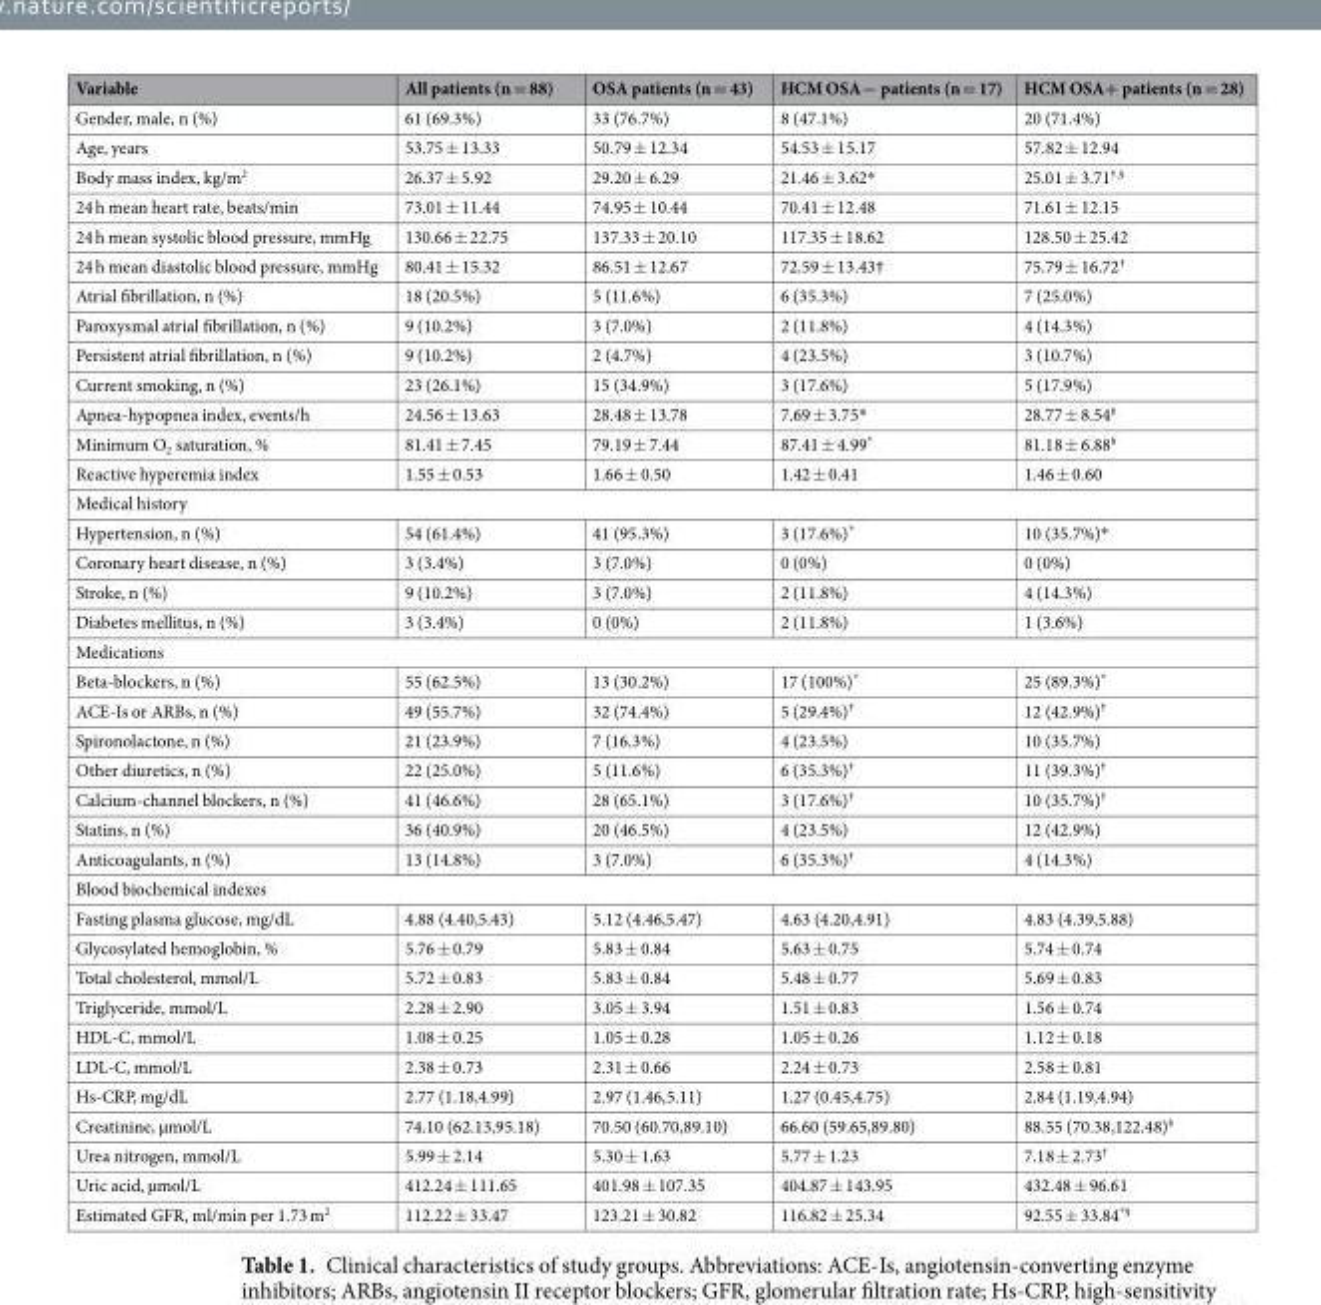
<table><thead><tr><td>Variable</td><td>All patients (n = 88)</td><td>OSA patients (n = 43)</td><td>HCM OSA− patients (n = 17)</td><td>HCM OSA+ patients (n = 28)</td></tr></thead><tbody><tr><td>Gender, male, n (%)</td><td>61 (69.3%)</td><td>33 (76.7%)</td><td>8 (47.1%)</td><td>20 (71.4%)</td></tr><tr><td>Age, years</td><td>53.75 ± 13.33</td><td>50.79 ± 12.34</td><td>54.53 ± 15.17</td><td>57.82 ± 12.94</td></tr><tr><td>Body mass index, kg/m<sup>2</sup></td><td>26.37 ± 5.92</td><td>29.20 ± 6.29</td><td>21.46 ± 3.62*</td><td>25.01 ± 3.71<sup>†,§</sup></td></tr><tr><td>24 h mean heart rate, beats/min</td><td>73.01 ± 11.44</td><td>74.95 ± 10.44</td><td>70.41 ± 12.48</td><td>71.61 ± 12.15</td></tr><tr><td>24 h mean systolic blood pressure, mmHg</td><td>130.66 ± 22.75</td><td>137.33 ± 20.10</td><td>117.35 ± 18.62</td><td>128.50 ± 25.42</td></tr><tr><td>24 h mean diastolic blood pressure, mmHg</td><td>80.41 ± 15.32</td><td>86.51 ± 12.67</td><td>72.59 ± 13.43†</td><td>75.79 ± 16.72<sup>†</sup></td></tr><tr><td>Atrial fibrillation, n (%)</td><td>18 (20.5%)</td><td>5 (11.6%)</td><td>6 (35.3%)</td><td>7 (25.0%)</td></tr><tr><td>Paroxysmal atrial fibrillation, n (%)</td><td>9 (10.2%)</td><td>3 (7.0%)</td><td>2 (11.8%)</td><td>4 (14.3%)</td></tr><tr><td>Persistent atrial fibrillation, n (%)</td><td>9 (10.2%)</td><td>2 (4.7%)</td><td>4 (23.5%)</td><td>3 (10.7%)</td></tr><tr><td>Current smoking, n (%)</td><td>23 (26.1%)</td><td>15 (34.9%)</td><td>3 (17.6%)</td><td>5 (17.9%)</td></tr><tr><td>Apnea-hypopnea index, events/h</td><td>24.56 ± 13.63</td><td>28.48 ± 13.78</td><td>7.69 ± 3.75*</td><td>28.77 ± 8.54<sup>‡</sup></td></tr><tr><td>Minimum O<sub>2</sub> saturation, %</td><td>81.41 ± 7.45</td><td>79.19 ± 7.44</td><td>87.41 ± 4.99*</td><td>81.18 ± 6.88<sup>§</sup></td></tr><tr><td>Reactive hyperemia index</td><td>1.55 ± 0.53</td><td>1.66 ± 0.50</td><td>1.42 ± 0.41</td><td>1.46 ± 0.60</td></tr><tr><td colspan="5">Medical history</td></tr><tr><td>Hypertension, n (%)</td><td>54 (61.4%)</td><td>41 (95.3%)</td><td>3 (17.6%)*</td><td>10 (35.7%)*</td></tr><tr><td>Coronary heart disease, n (%)</td><td>3 (3.4%)</td><td>3 (7.0%)</td><td>0 (0%)</td><td>0 (0%)</td></tr><tr><td>Stroke, n (%)</td><td>9 (10.2%)</td><td>3 (7.0%)</td><td>2 (11.8%)</td><td>4 (14.3%)</td></tr><tr><td>Diabetes mellitus, n (%)</td><td>3 (3.4%)</td><td>0 (0%)</td><td>2 (11.8%)</td><td>1 (3.6%)</td></tr><tr><td colspan="5">Medications</td></tr><tr><td>Beta-blockers, n (%)</td><td>55 (62.5%)</td><td>13 (30.2%)</td><td>17 (100%)*</td><td>25 (89.3%)*</td></tr><tr><td>ACE-Is or ARBs, n (%)</td><td>49 (55.7%)</td><td>32 (74.4%)</td><td>5 (29.4%)<sup>†</sup></td><td>12 (42.9%)<sup>†</sup></td></tr><tr><td>Spironolactone, n (%)</td><td>21 (23.9%)</td><td>7 (16.3%)</td><td>4 (23.5%)</td><td>10 (35.7%)</td></tr><tr><td>Other diuretics, n (%)</td><td>22 (25.0%)</td><td>5 (11.6%)</td><td>6 (35.3%)<sup>†</sup></td><td>11 (39.3%)<sup>†</sup></td></tr><tr><td>Calcium-channel blockers, n (%)</td><td>41 (46.6%)</td><td>28 (65.1%)</td><td>3 (17.6%)<sup>†</sup></td><td>10 (35.7%)<sup>†</sup></td></tr><tr><td>Statins, n (%)</td><td>36 (40.9%)</td><td>20 (46.5%)</td><td>4 (23.5%)</td><td>12 (42.9%)</td></tr><tr><td>Anticoagulants, n (%)</td><td>13 (14.8%)</td><td>3 (7.0%)</td><td>6 (35.3%)<sup>†</sup></td><td>4 (14.3%)</td></tr><tr><td colspan="5">Blood biochemical indexes</td></tr><tr><td>Fasting plasma glucose, mg/dL</td><td>4.88 (4.40,5.43)</td><td>5.12 (4.46,5.47)</td><td>4.63 (4.20,4.91)</td><td>4.83 (4.39,5.88)</td></tr><tr><td>Glycosylated hemoglobin, %</td><td>5.76 ± 0.79</td><td>5.83 ± 0.84</td><td>5.63 ± 0.75</td><td>5.74 ± 0.74</td></tr><tr><td>Total cholesterol, mmol/L</td><td>5.72 ± 0.83</td><td>5.83 ± 0.84</td><td>5.48 ± 0.77</td><td>5.69 ± 0.83</td></tr><tr><td>Triglyceride, mmol/L</td><td>2.28 ± 2.90</td><td>3.05 ± 3.94</td><td>1.51 ± 0.83</td><td>1.56 ± 0.74</td></tr><tr><td>HDL-C, mmol/L</td><td>1.08 ± 0.25</td><td>1.05 ± 0.28</td><td>1.05 ± 0.26</td><td>1.12 ± 0.18</td></tr><tr><td>LDL-C, mmol/L</td><td>2.38 ± 0.73</td><td>2.31 ± 0.66</td><td>2.24 ± 0.73</td><td>2.58 ± 0.81</td></tr><tr><td>Hs-CRP, mg/dL</td><td>2.77 (1.18,4.99)</td><td>2.97 (1.46,5.11)</td><td>1.27 (0.45,4.75)</td><td>2.84 (1.19,4.94)</td></tr><tr><td>Creatinine, µmol/L</td><td>74.10 (62.13,95.18)</td><td>70.50 (60.70,89.10)</td><td>66.60 (59.65,89.80)</td><td>88.55 (70.38,122.48)<sup>§</sup></td></tr><tr><td>Urea nitrogen, mmol/L</td><td>5.99 ± 2.14</td><td>5.30 ± 1.63</td><td>5.77 ± 1.23</td><td>7.18 ± 2.73<sup>†</sup></td></tr><tr><td>Uric acid, µmol/L</td><td>412.24 ± 111.65</td><td>401.98 ± 107.35</td><td>404.87 ± 143.95</td><td>432.48 ± 96.61</td></tr><tr><td>Estimated GFR, ml/min per 1.73 m<sup>2</sup></td><td>112.22 ± 33.47</td><td>123.21 ± 30.82</td><td>116.82 ± 25.34</td><td>92.55 ± 33.84<sup>*§</sup></td></tr></tbody></table>